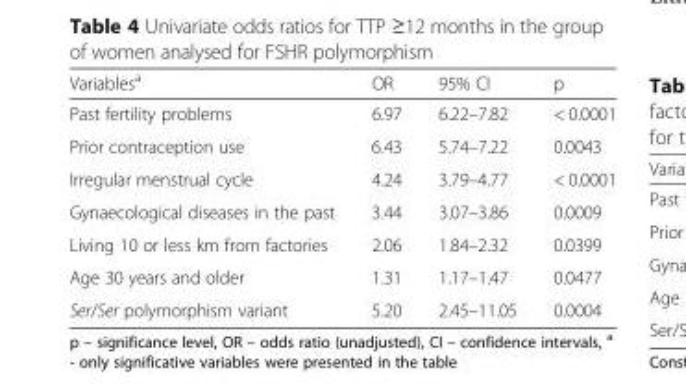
<table><thead><tr><td>Variables<sup>a</sup></td><td>OR</td><td>95% CI</td><td>p</td></tr></thead><tbody><tr><td>Past fertility problems</td><td>6.97</td><td>6.22–7.82</td><td>&lt; 0.0001</td></tr><tr><td>Prior contraception use</td><td>6.43</td><td>5.74–7.22</td><td>0.0043</td></tr><tr><td>Irregular menstrual cycle</td><td>4.24</td><td>3.79–4.77</td><td>&lt; 0.0001</td></tr><tr><td>Gynaecological diseases in the past</td><td>3.44</td><td>3.07–3.86</td><td>0.0009</td></tr><tr><td>Living 10 or less km from factories</td><td>2.06</td><td>1.84–2.32</td><td>0.0399</td></tr><tr><td>Age 30 years and older</td><td>1.31</td><td>1.17–1.47</td><td>0.0477</td></tr><tr><td>Ser/Ser polymorphism variant</td><td>5.20</td><td>2.45–11.05</td><td>0.0004</td></tr></tbody></table>